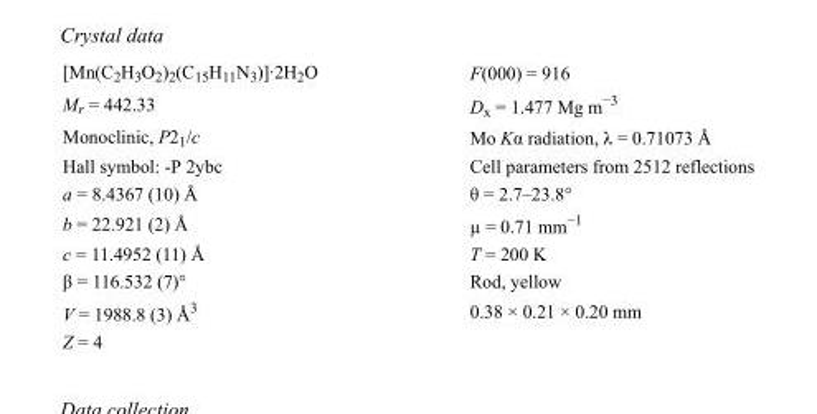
<table><tbody><tr><td>[Mn(C<sub>2</sub>H<sub>3</sub>O<sub>2</sub>)<sub>2</sub>(C<sub>15</sub>H<sub>11</sub>N<sub>3</sub>)]·2H<sub>2</sub>O</td><td>F(000) = 916</td></tr><tr><td>M<sub>r</sub> = 442.33</td><td>D<sub>x</sub> = 1.477 Mg m<sup>−3</sup></td></tr><tr><td>Monoclinic, P2<sub>1</sub>/c</td><td>Mo Kα radiation, λ = 0.71073 Å</td></tr><tr><td>Hall symbol: -P 2ybc</td><td>Cell parameters from 2512 reflections</td></tr><tr><td>a = 8.4367 (10) Å</td><td>θ = 2.7–23.8°</td></tr><tr><td>b = 22.921 (2) Å</td><td>µ = 0.71 mm<sup>−1</sup></td></tr><tr><td>c = 11.4952 (11) Å</td><td>T = 200 K</td></tr><tr><td>β = 116.532 (7)°</td><td>Rod, yellow</td></tr><tr><td>V = 1988.8 (3) Å<sup>3</sup></td><td>0.38 × 0.21 × 0.20 mm</td></tr><tr><td>Z = 4</td><td></td></tr></tbody></table>